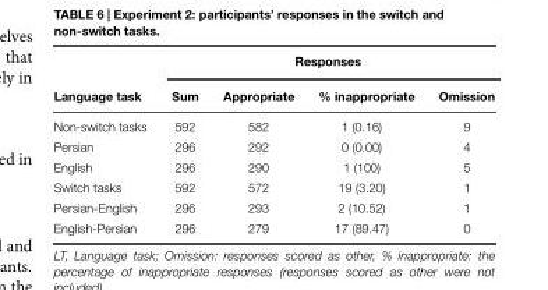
<table><thead><tr><td rowspan="2">Language task</td><td colspan="4">Responses</td></tr><tr><td>Sum</td><td>Appropriate</td><td>% inappropriate</td><td>Omission</td></tr></thead><tbody><tr><td>Non-switch tasks</td><td>592</td><td>582</td><td>1 (0.16)</td><td>9</td></tr><tr><td>Persian</td><td>296</td><td>292</td><td>0 (0.00)</td><td>4</td></tr><tr><td>English</td><td>296</td><td>290</td><td>1 (100)</td><td>5</td></tr><tr><td>Switch tasks</td><td>592</td><td>572</td><td>19 (3.20)</td><td>1</td></tr><tr><td>Persian-English</td><td>296</td><td>293</td><td>2 (10.52)</td><td>1</td></tr><tr><td>English-Persian</td><td>296</td><td>279</td><td>17 (89.47)</td><td>0</td></tr></tbody></table>